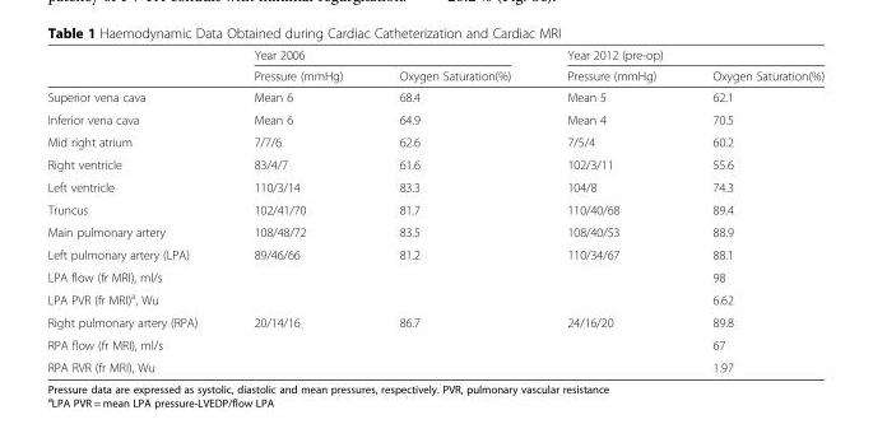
<table><thead><tr><td rowspan="2"></td><td colspan="2">Year 2006</td><td colspan="2">Year 2012 (pre-op)</td></tr><tr><td>Pressure (mmHg)</td><td>Oxygen Saturation(%)</td><td>Pressure (mmHg)</td><td>Oxygen Saturation(%)</td></tr></thead><tbody><tr><td>Superior vena cava</td><td>Mean 6</td><td>68.4</td><td>Mean 5</td><td>62.1</td></tr><tr><td>Inferior vena cava</td><td>Mean 6</td><td>64.9</td><td>Mean 4</td><td>70.5</td></tr><tr><td>Mid right atrium</td><td>7/7/6</td><td>62.6</td><td>7/5/4</td><td>60.2</td></tr><tr><td>Right ventricle</td><td>83/4/7</td><td>61.6</td><td>102/3/11</td><td>55.6</td></tr><tr><td>Left ventricle</td><td>110/3/14</td><td>83.3</td><td>104/8</td><td>74.3</td></tr><tr><td>Truncus</td><td>102/41/70</td><td>81.7</td><td>110/40/68</td><td>89.4</td></tr><tr><td>Main pulmonary artery</td><td>108/48/72</td><td>83.5</td><td>108/40/53</td><td>88.9</td></tr><tr><td>Left pulmonary artery (LPA)</td><td>89/46/66</td><td>81.2</td><td>110/34/67</td><td>88.1</td></tr><tr><td>LPA flow (fr MRI), ml/s</td><td></td><td></td><td></td><td>98</td></tr><tr><td>LPA PVR (fr MRI)<sup>a</sup>, Wu</td><td></td><td></td><td></td><td>6.62</td></tr><tr><td>Right pulmonary artery (RPA)</td><td>20/14/16</td><td>86.7</td><td>24/16/20</td><td>89.8</td></tr><tr><td>RPA flow (fr MRI), ml/s</td><td></td><td></td><td></td><td>67</td></tr><tr><td>RPA RVR (fr MRI), Wu</td><td></td><td></td><td></td><td>1.97</td></tr></tbody></table>